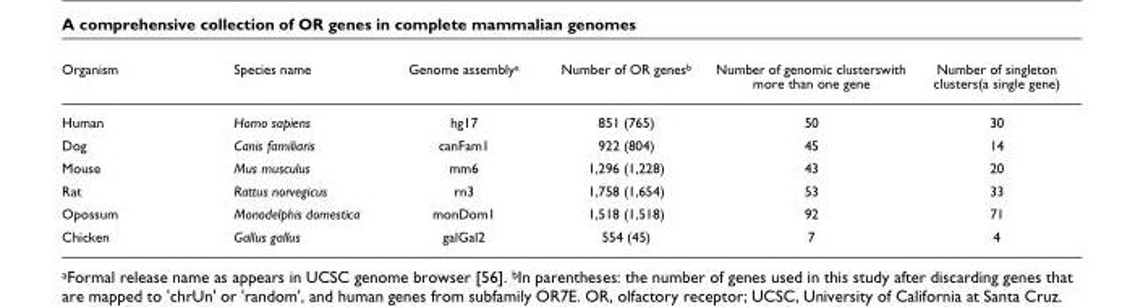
<table><thead><tr><td>Organism</td><td>Species name</td><td>Genome assemblya</td><td>Number of OR genesb</td><td>Number of genomic clusterswith more than one gene</td><td>Number of singleton clusters(a single gene)</td></tr></thead><tbody><tr><td>Human</td><td>Homo sapiens</td><td>hg17</td><td>851 (765)</td><td>50</td><td>30</td></tr><tr><td>Dog</td><td>Canis familiaris</td><td>canFam1</td><td>922 (804)</td><td>45</td><td>14</td></tr><tr><td>Mouse</td><td>Mus musculus</td><td>mm6</td><td>1,296 (1,228)</td><td>43</td><td>20</td></tr><tr><td>Rat</td><td>Rattus norvegicus</td><td>rn3</td><td>1,758 (1,654)</td><td>53</td><td>33</td></tr><tr><td>Opossum</td><td>Monodelphis domestica</td><td>monDom1</td><td>1,518 (1,518)</td><td>92</td><td>71</td></tr><tr><td>Chicken</td><td>Gallus gallus</td><td>galGal2</td><td>554 (45)</td><td>7</td><td>4</td></tr></tbody></table>